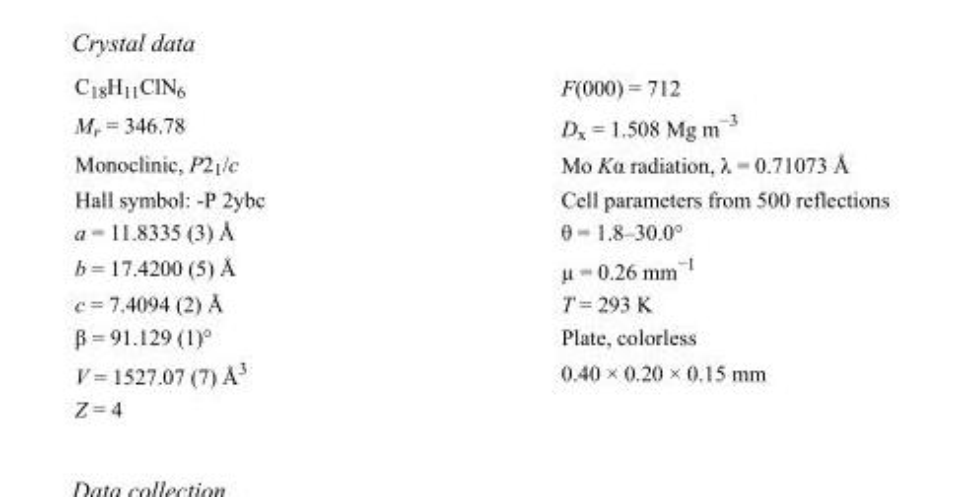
<table><tbody><tr><td>C<sub>18</sub>H<sub>11</sub>ClN<sub>6</sub></td><td>F(000) = 712</td></tr><tr><td>M<sub>r</sub> = 346.78</td><td>D<sub>x</sub> = 1.508 Mg m<sup>−3</sup></td></tr><tr><td>Monoclinic, P2<sub>1</sub>/c</td><td>Mo Kα radiation, λ = 0.71073 Å</td></tr><tr><td>Hall symbol: -P 2ybc</td><td>Cell parameters from 500 reflections</td></tr><tr><td>a = 11.8335 (3) Å</td><td>θ = 1.8–30.0°</td></tr><tr><td>b = 17.4200 (5) Å</td><td>µ = 0.26 mm<sup>−1</sup></td></tr><tr><td>c = 7.4094 (2) Å</td><td>T = 293 K</td></tr><tr><td>β = 91.129 (1)°</td><td>Plate, colorless</td></tr><tr><td>V = 1527.07 (7) Å<sup>3</sup></td><td>0.40 × 0.20 × 0.15 mm</td></tr><tr><td>Z = 4</td><td></td></tr></tbody></table>